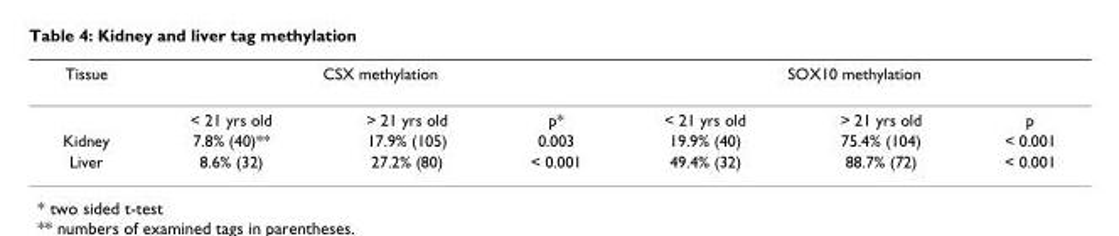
<table><thead><tr><td rowspan="2">Tissue</td><td colspan="3">CSX methylation</td><td colspan="3">SOX10 methylation</td></tr><tr><td>&lt; 21 yrs old</td><td>&gt; 21 yrs old</td><td>p*</td><td>&lt; 21 yrs old</td><td>&gt; 21 yrs old</td><td>p</td></tr></thead><tbody><tr><td>Kidney</td><td>7.8% (40)**</td><td>17.9% (105)</td><td>0.003</td><td>19.9% (40)</td><td>75.4% (104)</td><td>&lt; 0.001</td></tr><tr><td>Liver</td><td>8.6% (32)</td><td>27.2% (80)</td><td>&lt; 0.001</td><td>49.4% (32)</td><td>88.7% (72)</td><td>&lt; 0.001</td></tr></tbody></table>